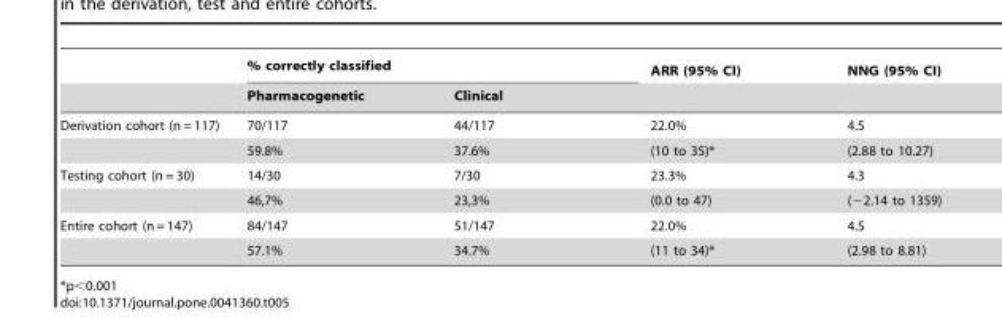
<table><thead><tr><td rowspan="2"></td><td colspan="2">% correctly classified</td><td rowspan="2">ARR (95% CI)</td><td rowspan="2">NNG (95% CI)</td></tr><tr><td>Pharmacogenetic</td><td>Clinical</td></tr></thead><tbody><tr><td rowspan="2">Derivation cohort (n = 117)</td><td>70/117</td><td>44/117</td><td>22.0%</td><td>4.5</td></tr><tr><td>59.8%</td><td>37.6%</td><td>(10 to 35)*</td><td>(2.88 to 10.27)</td></tr><tr><td rowspan="2">Testing cohort (n = 30)</td><td>14/30</td><td>7/30</td><td>23.3%</td><td>4.3</td></tr><tr><td>46,7%</td><td>23,3%</td><td>(0.0 to 47)</td><td>(−2.14 to 1359)</td></tr><tr><td rowspan="2">Entire cohort (n = 147)</td><td>84/147</td><td>51/147</td><td>22.0%</td><td>4.5</td></tr><tr><td>57.1%</td><td>34.7%</td><td>(11 to 34)*</td><td>(2.98 to 8.81)</td></tr></tbody></table>